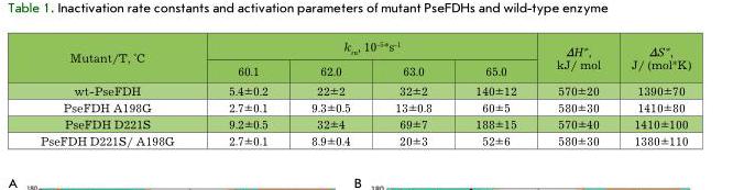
<table><thead><tr><td rowspan="2">Mutant/T, °C</td><td colspan="4">k<sub>in</sub>, 10<sup>-5</sup>*s<sup>-1</sup></td><td rowspan="2">ΔH<sup>≠</sup>, kJ/ mol</td><td rowspan="2">ΔS<sup>≠</sup>, J/ (mol*K)</td></tr><tr><td>60.1</td><td>62.0</td><td>63.0</td><td>65.0</td></tr></thead><tbody><tr><td>wt-PseFDH</td><td>5.4±0.2</td><td>22±2</td><td>32±2</td><td>140±12</td><td>570±20</td><td>1390±70</td></tr><tr><td>PseFDH A198G</td><td>2.7±0.1</td><td>9.3±0.5</td><td>13±0.8</td><td>60±5</td><td>580±30</td><td>1410±80</td></tr><tr><td>PseFDH D221S</td><td>9.2±0.5</td><td>32±4</td><td>69±7</td><td>188±15</td><td>570±40</td><td>1410±100</td></tr><tr><td>PseFDH D221S/ A198G</td><td>2.7±0.1</td><td>8.9±0.4</td><td>20±3</td><td>52±6</td><td>580±30</td><td>1380±110</td></tr></tbody></table>